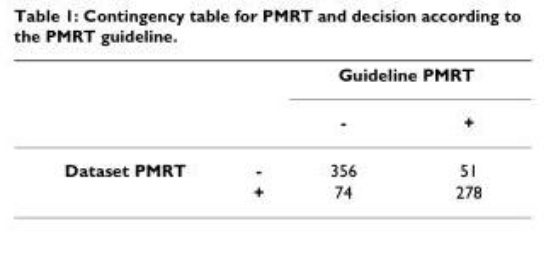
<table><thead><tr><td rowspan="2"></td><td rowspan="2"></td><td colspan="2">Guideline PMRT</td></tr><tr><td>-</td><td>+</td></tr></thead><tbody><tr><td rowspan="2">Dataset PMRT</td><td>-</td><td>356</td><td>51</td></tr><tr><td>+</td><td>74</td><td>278</td></tr></tbody></table>